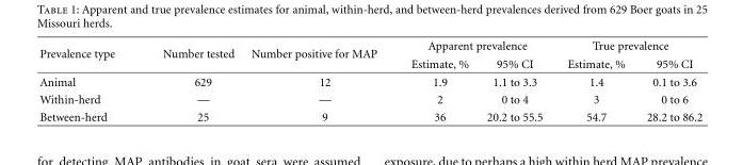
<table><thead><tr><td rowspan="2">Prevalence type</td><td rowspan="2">Number tested</td><td rowspan="2">Number positive for MAP</td><td colspan="2">Apparent prevalence</td><td colspan="2">True prevalence</td></tr><tr><td>Estimate, %</td><td>95% CI</td><td>Estimate, %</td><td>95% CI</td></tr></thead><tbody><tr><td>Animal</td><td>629</td><td>12</td><td>1.9</td><td>1.1 to 3.3</td><td>1.4</td><td>0.1 to 3.6</td></tr><tr><td>Within-herd</td><td>—</td><td>—</td><td>2</td><td>0 to 4</td><td>3</td><td>0 to 6</td></tr><tr><td>Between-herd</td><td>25</td><td>9</td><td>36</td><td>20.2 to 55.5</td><td>54.7</td><td>28.2 to 86.2</td></tr></tbody></table>